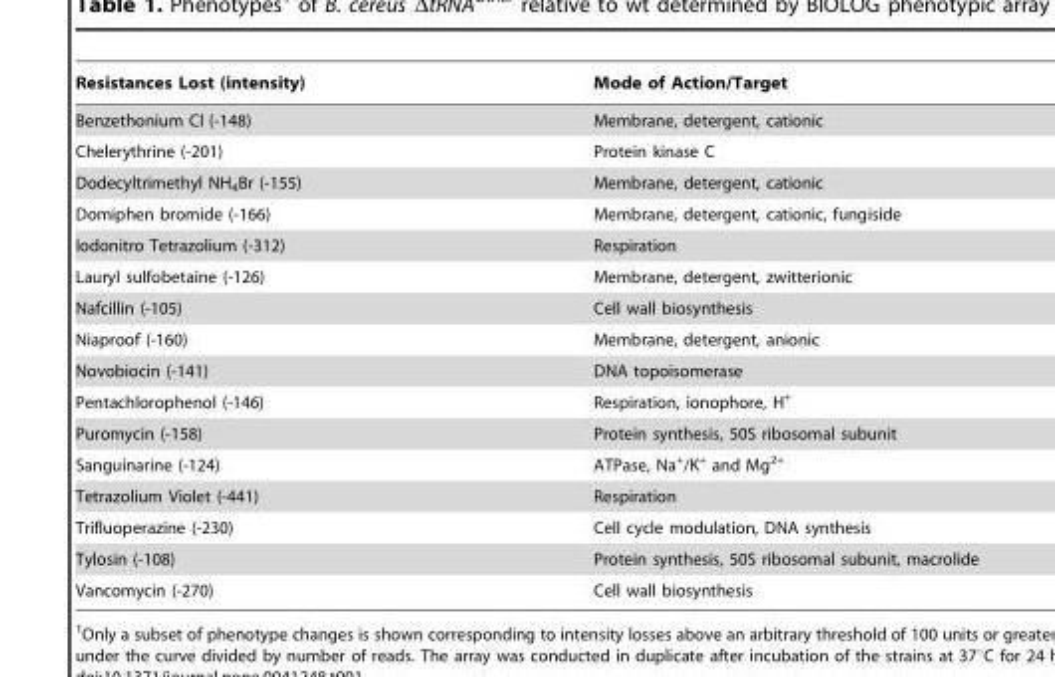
<table><thead><tr><td>Resistances Lost (intensity)</td><td>Mode of Action/Target</td></tr></thead><tbody><tr><td>Benzethonium Cl (-148)</td><td>Membrane, detergent, cationic</td></tr><tr><td>Chelerythrine (-201)</td><td>Protein kinase C</td></tr><tr><td>Dodecyltrimethyl NH<sub>4</sub>Br (-155)</td><td>Membrane, detergent, cationic</td></tr><tr><td>Domiphen bromide (-166)</td><td>Membrane, detergent, cationic, fungiside</td></tr><tr><td>Iodonitro Tetrazolium (-312)</td><td>Respiration</td></tr><tr><td>Lauryl sulfobetaine (-126)</td><td>Membrane, detergent, zwitterionic</td></tr><tr><td>Nafcillin (-105)</td><td>Cell wall biosynthesis</td></tr><tr><td>Niaproof (-160)</td><td>Membrane, detergent, anionic</td></tr><tr><td>Novobiocin (-141)</td><td>DNA topoisomerase</td></tr><tr><td>Pentachlorophenol (-146)</td><td>Respiration, ionophore, H<sup>+</sup></td></tr><tr><td>Puromycin (-158)</td><td>Protein synthesis, 50S ribosomal subunit</td></tr><tr><td>Sanguinarine (-124)</td><td>ATPase, Na<sup>+</sup>/K<sup>+</sup> and Mg<sup>2+</sup></td></tr><tr><td>Tetrazolium Violet (-441)</td><td>Respiration</td></tr><tr><td>Trifluoperazine (-230)</td><td>Cell cycle modulation, DNA synthesis</td></tr><tr><td>Tylosin (-108)</td><td>Protein synthesis, 50S ribosomal subunit, macrolide</td></tr><tr><td>Vancomycin (-270)</td><td>Cell wall biosynthesis</td></tr></tbody></table>